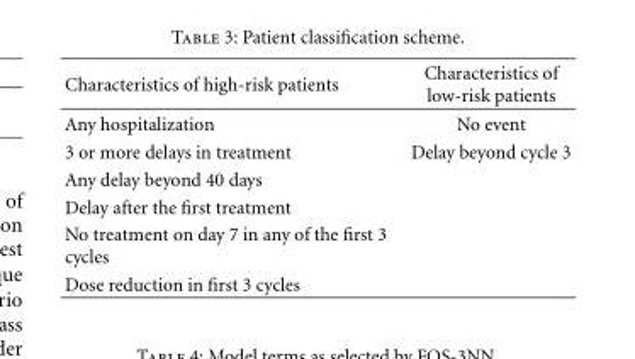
<table><thead><tr><td>Characteristics of high-risk patients</td><td>Characteristics of low-risk patients</td></tr></thead><tbody><tr><td>Any hospitalization</td><td>No event</td></tr><tr><td>3 or more delays in treatment</td><td>Delay beyond cycle 3</td></tr><tr><td colspan="2">Any delay beyond 40 days</td></tr><tr><td colspan="2">Delay after the first treatment</td></tr><tr><td colspan="2">No treatment on day 7 in any of the first 3 cycles</td></tr><tr><td>Dose reduction in first 3 cycles</td><td></td></tr></tbody></table>